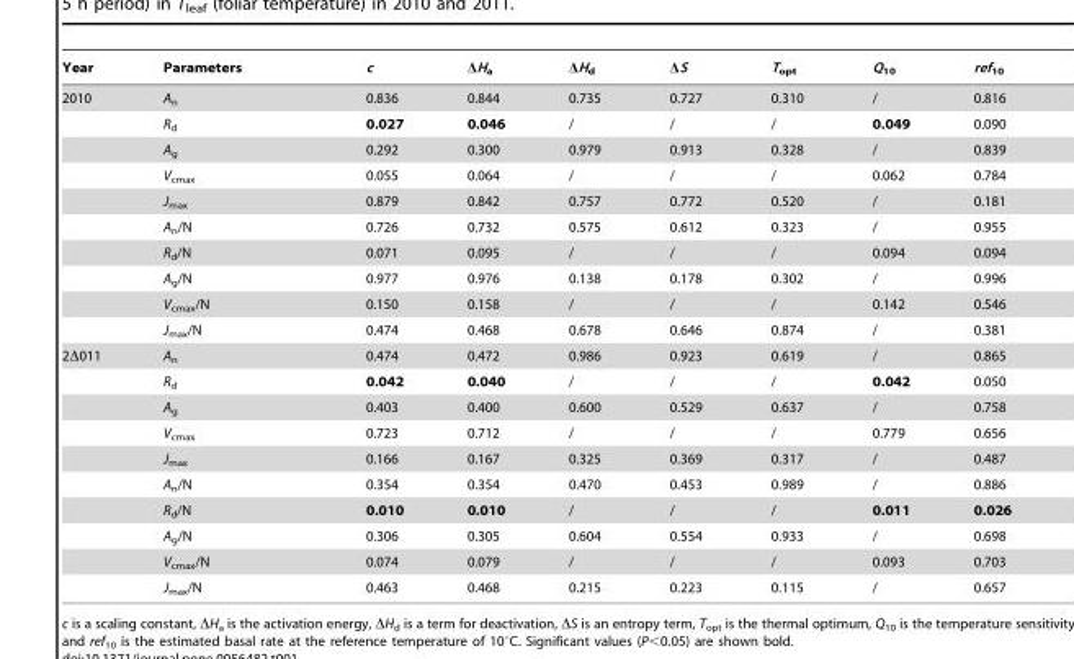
<table><thead><tr><td>Year</td><td>Parameters</td><td>c</td><td>ΔH<sub>a</sub></td><td>ΔH<sub>d</sub></td><td>ΔS</td><td>T<sub>opt</sub></td><td>Q<sub>10</sub></td><td>ref<sub>10</sub></td></tr></thead><tbody><tr><td rowspan="10">2010</td><td>A<sub>n</sub></td><td>0.836</td><td>0.844</td><td>0.735</td><td>0.727</td><td>0.310</td><td>/</td><td>0.816</td></tr><tr><td>R<sub>d</sub></td><td>0.027</td><td>0.046</td><td>/</td><td>/</td><td>/</td><td>0.049</td><td>0.090</td></tr><tr><td>A<sub>g</sub></td><td>0.292</td><td>0.300</td><td>0.979</td><td>0.913</td><td>0.328</td><td>/</td><td>0.839</td></tr><tr><td>V<sub>cmax</sub></td><td>0.055</td><td>0.064</td><td>/</td><td>/</td><td>/</td><td>0.062</td><td>0.784</td></tr><tr><td>J<sub>max</sub></td><td>0.879</td><td>0.842</td><td>0.757</td><td>0.772</td><td>0.520</td><td>/</td><td>0.181</td></tr><tr><td>A<sub>n</sub>/N</td><td>0.726</td><td>0.732</td><td>0.575</td><td>0.612</td><td>0.323</td><td>/</td><td>0.955</td></tr><tr><td>R<sub>d</sub>/N</td><td>0.071</td><td>0.095</td><td>/</td><td>/</td><td>/</td><td>0.094</td><td>0.094</td></tr><tr><td>A<sub>g</sub>/N</td><td>0.977</td><td>0.976</td><td>0.138</td><td>0.178</td><td>0.302</td><td>/</td><td>0.996</td></tr><tr><td>V<sub>cmax</sub>/N</td><td>0.150</td><td>0.158</td><td>/</td><td>/</td><td>/</td><td>0.142</td><td>0.546</td></tr><tr><td>J<sub>max</sub>/N</td><td>0.474</td><td>0.468</td><td>0.678</td><td>0.646</td><td>0.874</td><td>/</td><td>0.381</td></tr><tr><td rowspan="10">2Δ011</td><td>A<sub>n</sub></td><td>0.474</td><td>0.472</td><td>0.986</td><td>0.923</td><td>0.619</td><td>/</td><td>0.865</td></tr><tr><td>R<sub>d</sub></td><td>0.042</td><td>0.040</td><td>/</td><td>/</td><td>/</td><td>0.042</td><td>0.050</td></tr><tr><td>A<sub>g</sub></td><td>0.403</td><td>0.400</td><td>0.600</td><td>0.529</td><td>0.637</td><td>/</td><td>0.758</td></tr><tr><td>V<sub>cmax</sub></td><td>0.723</td><td>0.712</td><td>/</td><td>/</td><td>/</td><td>0.779</td><td>0.656</td></tr><tr><td>J<sub>max</sub></td><td>0.166</td><td>0.167</td><td>0.325</td><td>0.369</td><td>0.317</td><td>/</td><td>0.487</td></tr><tr><td>A<sub>n</sub>/N</td><td>0.354</td><td>0.354</td><td>0.470</td><td>0.453</td><td>0.989</td><td>/</td><td>0.886</td></tr><tr><td>R<sub>d</sub>/N</td><td>0.010</td><td>0.010</td><td>/</td><td>/</td><td>/</td><td>0.011</td><td>0.026</td></tr><tr><td>A<sub>g</sub>/N</td><td>0.306</td><td>0.305</td><td>0.604</td><td>0.554</td><td>0.933</td><td>/</td><td>0.698</td></tr><tr><td>V<sub>cmax</sub>/N</td><td>0.074</td><td>0.079</td><td>/</td><td>/</td><td>/</td><td>0.093</td><td>0.703</td></tr><tr><td>J<sub>max</sub>/N</td><td>0.463</td><td>0.468</td><td>0.215</td><td>0.223</td><td>0.115</td><td>/</td><td>0.657</td></tr></tbody></table>